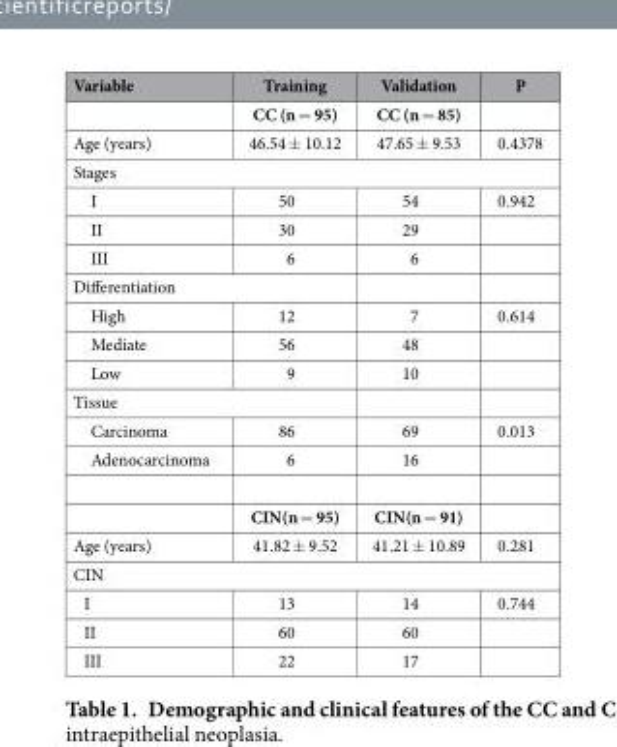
<table><thead><tr><td>Variable</td><td>Training</td><td>Validation</td><td>P</td></tr></thead><tbody><tr><td></td><td>CC (n = 95)</td><td>CC (n = 85)</td><td></td></tr><tr><td>Age (years)</td><td>46.54 ± 10.12</td><td>47.65 ± 9.53</td><td>0.4378</td></tr><tr><td colspan="4">Stages</td></tr><tr><td>I</td><td>50</td><td>54</td><td>0.942</td></tr><tr><td>II</td><td>30</td><td>29</td><td></td></tr><tr><td>III</td><td>6</td><td>6</td><td></td></tr><tr><td colspan="4">Differentiation</td></tr><tr><td>High</td><td>12</td><td>7</td><td>0.614</td></tr><tr><td>Mediate</td><td>56</td><td>48</td><td></td></tr><tr><td>Low</td><td>9</td><td>10</td><td></td></tr><tr><td colspan="4">Tissue</td></tr><tr><td>Carcinoma</td><td>86</td><td>69</td><td>0.013</td></tr><tr><td rowspan="2">Adenocarcinoma</td><td>6</td><td>16</td><td></td></tr><tr><td>CIN(n = 95)</td><td>CIN(n = 91)</td><td></td></tr><tr><td>Age (years)</td><td>41.82 ± 9.52</td><td>41.21 ± 10.89</td><td>0.281</td></tr><tr><td colspan="4">CIN</td></tr><tr><td>I</td><td>13</td><td>14</td><td>0.744</td></tr><tr><td>II</td><td>60</td><td>60</td><td></td></tr><tr><td>III</td><td>22</td><td>17</td><td></td></tr></tbody></table>